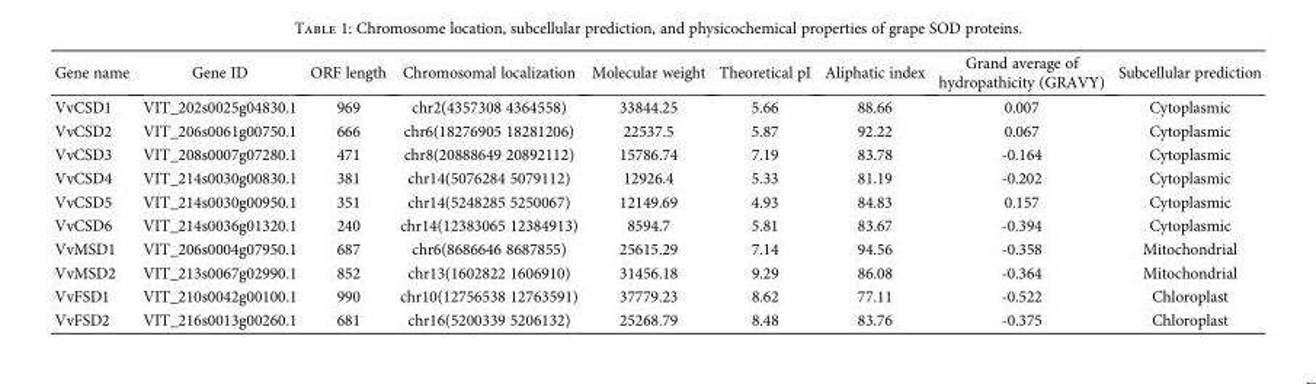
<table><thead><tr><td>Gene name</td><td>Gene ID</td><td>ORF length</td><td>Chromosomal localization</td><td>Molecular weight</td><td>Theoretical pI</td><td>Aliphatic index</td><td>Grand average of hydropathicity (GRAVY)</td><td>Subcellular prediction</td></tr></thead><tbody><tr><td>VvCSD1</td><td>VIT_202s0025g04830.1</td><td>969</td><td>chr2(4357308 4364558)</td><td>33844.25</td><td>5.66</td><td>88.66</td><td>0.007</td><td>Cytoplasmic</td></tr><tr><td>VvCSD2</td><td>VIT_206s0061g00750.1</td><td>666</td><td>chr6(18276905 18281206)</td><td>22537.5</td><td>5.87</td><td>92.22</td><td>0.067</td><td>Cytoplasmic</td></tr><tr><td>VvCSD3</td><td>VIT_208s0007g07280.1</td><td>471</td><td>chr8(20888649 20892112)</td><td>15786.74</td><td>7.19</td><td>83.78</td><td>-0.164</td><td>Cytoplasmic</td></tr><tr><td>VvCSD4</td><td>VIT_214s0030g00830.1</td><td>381</td><td>chr14(5076284 5079112)</td><td>12926.4</td><td>5.33</td><td>81.19</td><td>-0.202</td><td>Cytoplasmic</td></tr><tr><td>VvCSD5</td><td>VIT_214s0030g00950.1</td><td>351</td><td>chr14(5248285 5250067)</td><td>12149.69</td><td>4.93</td><td>84.83</td><td>0.157</td><td>Cytoplasmic</td></tr><tr><td>VvCSD6</td><td>VIT_214s0036g01320.1</td><td>240</td><td>chr14(12383065 12384913)</td><td>8594.7</td><td>5.81</td><td>83.67</td><td>-0.394</td><td>Cytoplasmic</td></tr><tr><td>VvMSD1</td><td>VIT_206s0004g07950.1</td><td>687</td><td>chr6(8686646 8687855)</td><td>25615.29</td><td>7.14</td><td>94.56</td><td>-0.358</td><td>Mitochondrial</td></tr><tr><td>VvMSD2</td><td>VIT_213s0067g02990.1</td><td>852</td><td>chr13(1602822 1606910)</td><td>31456.18</td><td>9.29</td><td>86.08</td><td>-0.364</td><td>Mitochondrial</td></tr><tr><td>VvFSD1</td><td>VIT_210s0042g00100.1</td><td>990</td><td>chr10(12756538 12763591)</td><td>37779.23</td><td>8.62</td><td>77.11</td><td>-0.522</td><td>Chloroplast</td></tr><tr><td>VvFSD2</td><td>VIT_216s0013g00260.1</td><td>681</td><td>chr16(5200339 5206132)</td><td>25268.79</td><td>8.48</td><td>83.76</td><td>-0.375</td><td>Chloroplast</td></tr></tbody></table>